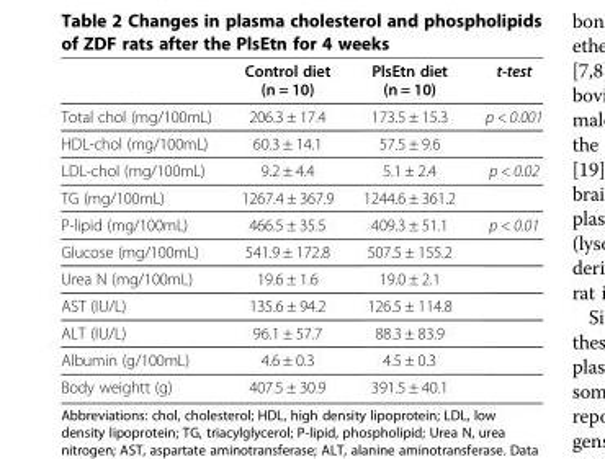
<table><thead><tr><td></td><td>Control diet (n = 10)</td><td>PlsEtn diet (n = 10)</td><td>t-test</td></tr></thead><tbody><tr><td>Total chol (mg/100mL)</td><td>206.3 ± 17.4</td><td>173.5 ± 15.3</td><td>p &lt; 0.001</td></tr><tr><td>HDL-chol (mg/100mL)</td><td>60.3 ± 14.1</td><td>57.5 ± 9.6</td><td></td></tr><tr><td>LDL-chol (mg/100mL)</td><td>9.2 ± 4.4</td><td>5.1 ± 2.4</td><td>p &lt; 0.02</td></tr><tr><td>TG (mg/100mL)</td><td>1267.4 ± 367.9</td><td>1244.6 ± 361.2</td><td></td></tr><tr><td>P-lipid (mg/100mL)</td><td>466.5 ± 35.5</td><td>409.3 ± 51.1</td><td>p &lt; 0.01</td></tr><tr><td>Glucose (mg/100mL)</td><td>541.9 ± 172.8</td><td>507.5 ± 155.2</td><td></td></tr><tr><td>Urea N (mg/100mL)</td><td>19.6 ± 1.6</td><td>19.0 ± 2.1</td><td></td></tr><tr><td>AST (IU/L)</td><td>135.6 ± 94.2</td><td>126.5 ± 114.8</td><td></td></tr><tr><td>ALT (IU/L)</td><td>96.1 ± 57.7</td><td>88.3 ± 83.9</td><td></td></tr><tr><td>Albumin (g/100mL)</td><td>4.6 ± 0.3</td><td>4.5 ± 0.3</td><td></td></tr><tr><td>Body weightt (g)</td><td>407.5 ± 30.9</td><td>391.5 ± 40.1</td><td></td></tr></tbody></table>